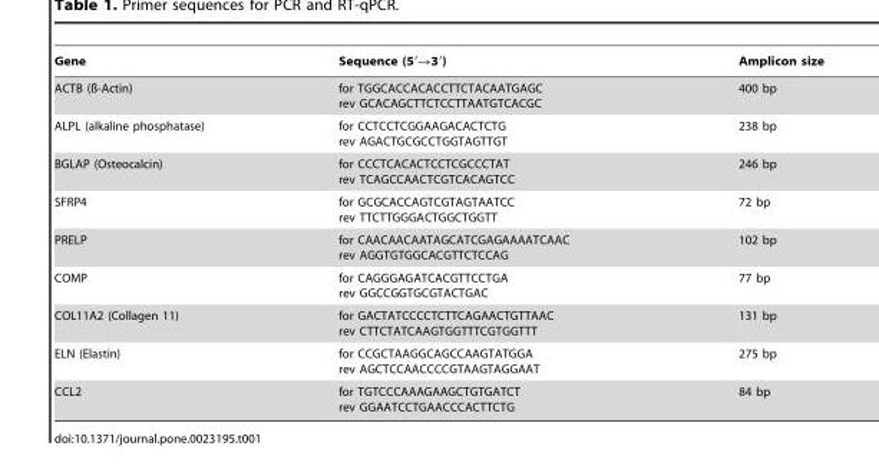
<table><thead><tr><td>Gene</td><td>Sequence (5′→3′)</td><td>Amplicon size</td></tr></thead><tbody><tr><td>ACTB (ß-Actin)</td><td>for TGGCACCACACCTTCTACAATGAGC rev GCACAGCTTCTCCTTAATGTCACGC</td><td>400 bp</td></tr><tr><td>ALPL (alkaline phosphatase)</td><td>for CCTCCTCGGAAGACACTCTG rev AGACTGCGCCTGGTAGTTGT</td><td>238 bp</td></tr><tr><td>BGLAP (Osteocalcin)</td><td>for CCCTCACACTCCTCGCCCTAT rev TCAGCCAACTCGTCACAGTCC</td><td>246 bp</td></tr><tr><td>SFRP4</td><td>for GCGCACCAGTCGTAGTAATCC rev TTCTTGGGACTGGCTGGTT</td><td>72 bp</td></tr><tr><td>PRELP</td><td>for CAACAACAATAGCATCGAGAAAATCAAC rev AGGTGTGGCACGTTCTCCAG</td><td>102 bp</td></tr><tr><td>COMP</td><td>for CAGGGAGATCACGTTCCTGA rev GGCCGGTGCGTACTGAC</td><td>77 bp</td></tr><tr><td>COL11A2 (Collagen 11)</td><td>for GACTATCCCCTCTTCAGAACTGTTAAC rev CTTCTATCAAGTGGTTTCGTGGTTT</td><td>131 bp</td></tr><tr><td>ELN (Elastin)</td><td>for CCGCTAAGGCAGCCAAGTATGGA rev AGCTCCAACCCCGTAAGTAGGAAT</td><td>275 bp</td></tr><tr><td>CCL2</td><td>for TGTCCCAAAGAAGCTGTGATCT rev GGAATCCTGAACCCACTTCTG</td><td>84 bp</td></tr></tbody></table>